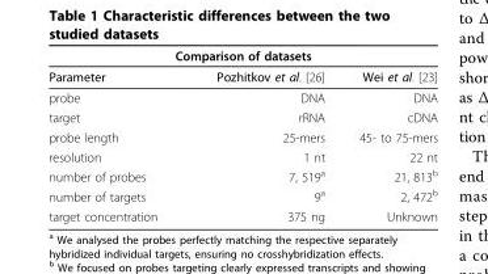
<table><thead><tr><td colspan="3">Comparison of datasets</td></tr><tr><td>Parameter</td><td>Pozhitkov et al. [26]</td><td>Wei et al. [23]</td></tr></thead><tbody><tr><td>probe</td><td>DNA</td><td>DNA</td></tr><tr><td>target</td><td>rRNA</td><td>cDNA</td></tr><tr><td>probe length</td><td>25-mers</td><td>45- to 75-mers</td></tr><tr><td>resolution</td><td>1 nt</td><td>22 nt</td></tr><tr><td>number of probes</td><td>7, 519<sup>a</sup></td><td>21, 813<sup>b</sup></td></tr><tr><td>number of targets</td><td>9<sup>a</sup></td><td>2, 472<sup>b</sup></td></tr><tr><td>target concentration</td><td>375 ng</td><td>Unknown</td></tr></tbody></table>